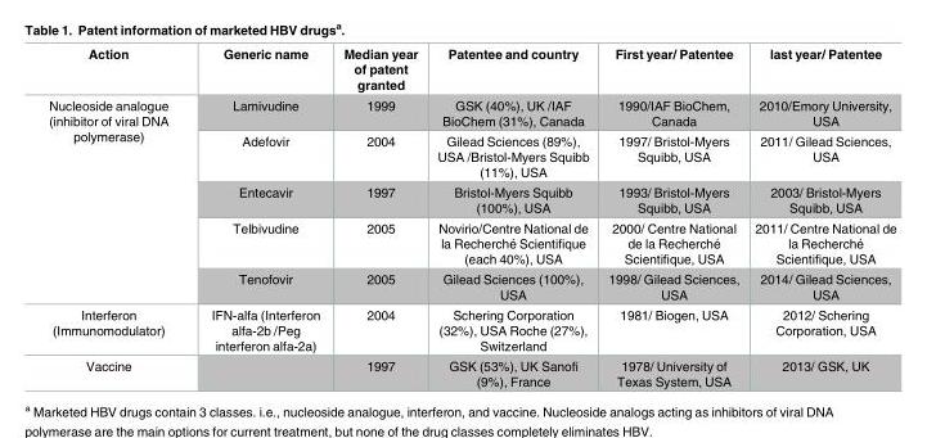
<table><thead><tr><td>Action</td><td>Generic name</td><td>Median year of patent granted</td><td>Patentee and country</td><td>First year/ Patentee</td><td>last year/ Patentee</td></tr></thead><tbody><tr><td rowspan="5">Nucleoside analogue (inhibitor of viral DNA polymerase)</td><td>Lamivudine</td><td>1999</td><td>GSK (40%), UK /IAF BioChem (31%), Canada</td><td>1990/IAF BioChem, Canada</td><td>2010/Emory University, USA</td></tr><tr><td>Adefovir</td><td>2004</td><td>Gilead Sciences (89%), USA /Bristol-Myers Squibb (11%), USA</td><td>1997/ Bristol-Myers Squibb, USA</td><td>2011/ Gilead Sciences, USA</td></tr><tr><td>Entecavir</td><td>1997</td><td>Bristol-Myers Squibb (100%), USA</td><td>1993/ Bristol-Myers Squibb, USA</td><td>2003/ Bristol-Myers Squibb, USA</td></tr><tr><td>Telbivudine</td><td>2005</td><td>Novirio/Centre National de la Recherche´ Scientifique (each 40%), USA</td><td>2000/ Centre National de la Recherche´ Scientifique, USA</td><td>2011/ Centre National de la Recherche´ Scientifique, USA</td></tr><tr><td>Tenofovir</td><td>2005</td><td>Gilead Sciences (100%), USA</td><td>1998/ Gilead Sciences, USA</td><td>2014/ Gilead Sciences, USA</td></tr><tr><td>Interferon (Immunomodulator)</td><td>IFN-alfa (Interferon alfa-2b /Peg interferon alfa-2a)</td><td>2004</td><td>Schering Corporation (32%), USA Roche (27%), Switzerland</td><td>1981/ Biogen, USA</td><td>2012/ Schering Corporation, USA</td></tr><tr><td>Vaccine</td><td></td><td>1997</td><td>GSK (53%), UK Sanofi (9%), France</td><td>1978/ University of Texas System, USA</td><td>2013/ GSK, UK</td></tr></tbody></table>